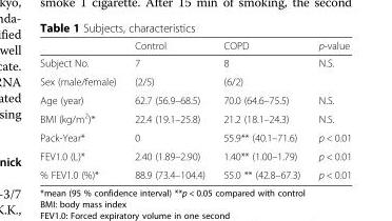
<table><thead><tr><td></td><td>Control</td><td>COPD</td><td>p-value</td></tr></thead><tbody><tr><td>Subject No.</td><td>7</td><td>8</td><td rowspan="2">N.S.</td></tr><tr><td>Sex (male/female)</td><td>(2/5)</td><td>(6/2)</td></tr><tr><td>Age (year)</td><td>62.7 (56.9–68.5)</td><td>70.0 (64.6–75.5)</td><td>N.S.</td></tr><tr><td>BMI (kg/m<sup>2</sup>)*</td><td>22.4 (19.1–25.8)</td><td>21.2 (18.1–24.3)</td><td>N.S.</td></tr><tr><td>Pack-Year*</td><td>0</td><td>55.9** (40.1–71.6)</td><td>p &lt; 0.01</td></tr><tr><td>FEV1.0 (L)*</td><td>2.40 (1.89–2.90)</td><td>1.40** (1.00–1.79)</td><td>p &lt; 0.01</td></tr><tr><td>% FEV1.0 (%)*</td><td>88.9 (73.4–104.4)</td><td>55.0 ** (42.8–67.3)</td><td>p &lt; 0.01</td></tr></tbody></table>